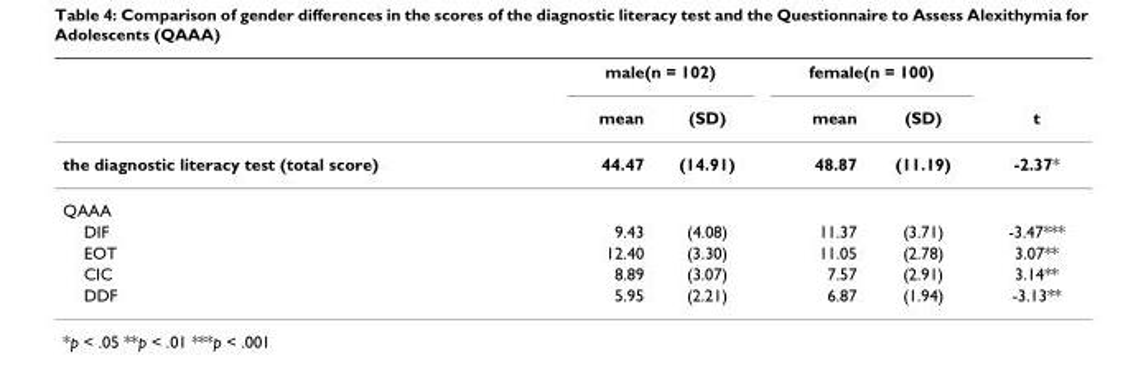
<table><thead><tr><td rowspan="2"></td><td colspan="2">male(n = 102)</td><td colspan="2">female(n = 100)</td><td rowspan="2">t</td></tr><tr><td>mean</td><td>(SD)</td><td>mean</td><td>(SD)</td></tr></thead><tbody><tr><td>the diagnostic literacy test (total score)</td><td>44.47</td><td>(14.91)</td><td>48.87</td><td>(11.19)</td><td>-2.37*</td></tr><tr><td colspan="6">QAAA</td></tr><tr><td>DIF</td><td>9.43</td><td>(4.08)</td><td>11.37</td><td>(3.71)</td><td>-3.47***</td></tr><tr><td>EOT</td><td>12.40</td><td>(3.30)</td><td>11.05</td><td>(2.78)</td><td>3.07**</td></tr><tr><td>CIC</td><td>8.89</td><td>(3.07)</td><td>7.57</td><td>(2.91)</td><td>3.14**</td></tr><tr><td>DDF</td><td>5.95</td><td>(2.21)</td><td>6.87</td><td>(1.94)</td><td>-3.13**</td></tr></tbody></table>